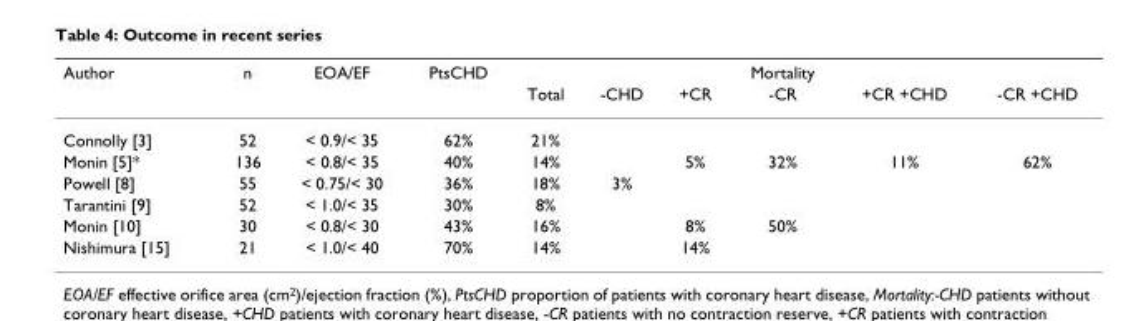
<table><thead><tr><td rowspan="2">Author</td><td rowspan="2">n</td><td rowspan="2">EOA/EF</td><td rowspan="2">PtsCHD</td><td rowspan="2">Total</td><td rowspan="2">-CHD</td><td rowspan="2">+CR</td><td rowspan="2">Mortality -CR</td><td rowspan="2">+CR +CHD</td><td rowspan="2">-CR +CHD</td></tr><tr></tr></thead><tbody><tr><td>Connolly [3]</td><td>52</td><td>&lt; 0.9/&lt; 35</td><td>62%</td><td>21%</td><td></td><td></td><td></td><td></td><td></td></tr><tr><td>Monin [5]*</td><td>136</td><td>&lt; 0.8/&lt; 35</td><td>40%</td><td>14%</td><td></td><td>5%</td><td>32%</td><td>11%</td><td>62%</td></tr><tr><td>Powell [8]</td><td>55</td><td>&lt; 0.75/&lt; 30</td><td>36%</td><td>18%</td><td>3%</td><td></td><td></td><td></td><td></td></tr><tr><td>Tarantini [9]</td><td>52</td><td>&lt; 1.0/&lt; 35</td><td>30%</td><td>8%</td><td></td><td></td><td></td><td></td><td></td></tr><tr><td>Monin [10]</td><td>30</td><td>&lt; 0.8/&lt; 30</td><td>43%</td><td>16%</td><td></td><td>8%</td><td>50%</td><td></td><td></td></tr><tr><td>Nishimura [15]</td><td>21</td><td>&lt; 1.0/&lt; 40</td><td>70%</td><td>14%</td><td></td><td>14%</td><td></td><td></td><td></td></tr></tbody></table>